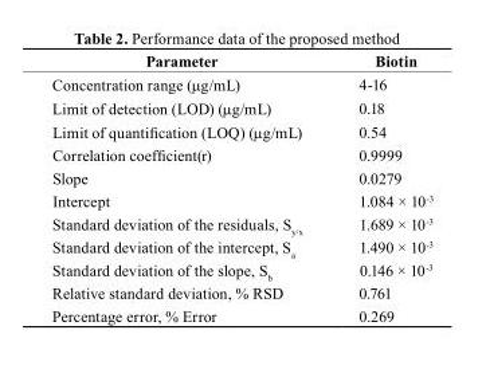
<table><thead><tr><td>parameter</td><td>biotin</td></tr></thead><tbody><tr><td>Concentration range (µg/mL)</td><td>4-16</td></tr><tr><td>Limit of detection (LOD) (µg/mL)</td><td>0.18</td></tr><tr><td>Limit of quantification (LOQ) (µg/mL)</td><td>0.54</td></tr><tr><td>Correlation coefficient(r)</td><td>0.9999</td></tr><tr><td>Slope</td><td>0.0279</td></tr><tr><td>Intercept</td><td>1.084 × 10<sup>-3</sup></td></tr><tr><td>Standard deviation of the residuals, S<sub>y/x</sub></td><td>1.689 × 10<sup>-3</sup></td></tr><tr><td>Standard deviation of the intercept, S<sub>a</sub></td><td>1.490 × 10<sup>-3</sup></td></tr><tr><td>Standard deviation of the slope, S<sub>b</sub></td><td>0.146 × 10<sup>-3</sup></td></tr><tr><td>Relative standard deviation, % RSD</td><td>0.761</td></tr><tr><td>Percentage error, % Error</td><td>0.269</td></tr></tbody></table>